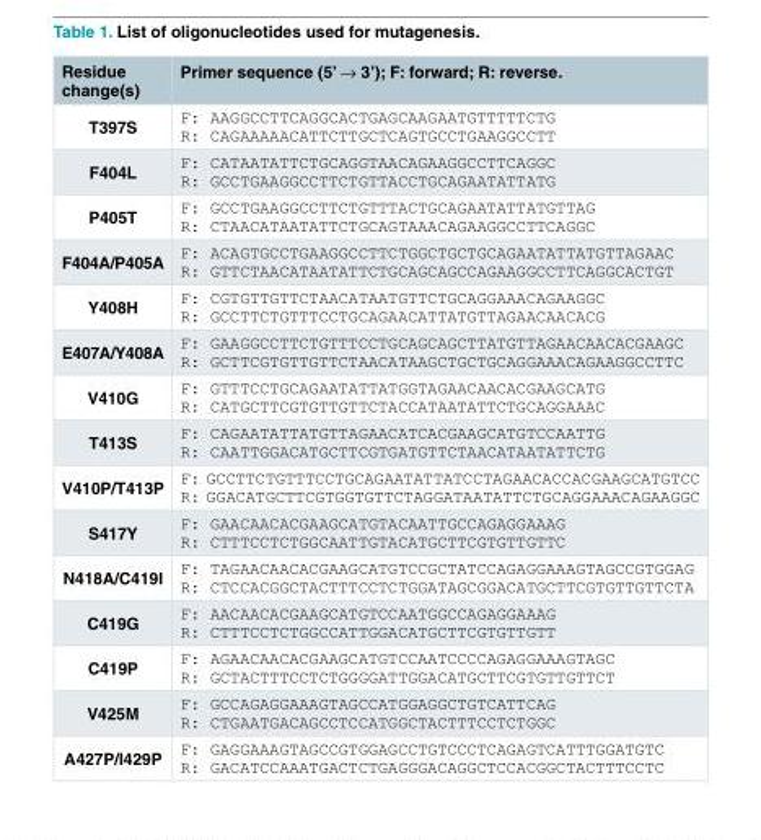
<table><thead><tr><td>Residue change(s)</td><td>Primer sequence (5’ → 3’); F: forward; R: reverse.</td></tr></thead><tbody><tr><td>T397S</td><td>F: AAGGCCTTCAGGCACTGAGCAAGAATGTTTTTCTG R: CAGAAAAACATTCTTGCTCAGTGCCTGAAGGCCTT</td></tr><tr><td>F404L</td><td>F: CATAATATTCTGCAGGTAACAGAAGGCCTTCAGGC R: GCCTGAAGGCCTTCTGTTACCTGCAGAATATTATG</td></tr><tr><td>P405T</td><td>F: GCCTGAAGGCCTTCTGTTTACTGCAGAATATTATGTTAG R: CTAACATAATATTCTGCAGTAAACAGAAGGCCTTCAGGC</td></tr><tr><td>F404A/P405A</td><td>F: ACAGTGCCTGAAGGCCTTCTGGCTGCTGCAGAATATTATGTTAGAAC R: GTTCTAACATAATATTCTGCAGCAGCCAGAAGGCCTTCAGGCACTGT</td></tr><tr><td>Y408H</td><td>F: CGTGTTGTTCTAACATAATGTTCTGCAGGAAACAGAAGGC R: GCCTTCTGTTTCCTGCAGAACATTATGTTAGAACAACACG</td></tr><tr><td>E407A/Y408A</td><td>F: GAAGGCCTTCTGTTTCCTGCAGCAGCTTATGTTAGAACAACACGAAGC R: GCTTCGTGTTGTTCTAACATAAGCTGCTGCAGGAAACAGAAGGCCTTC</td></tr><tr><td>V410G</td><td>F: GTTTCCTGCAGAATATTATGGTAGAACAACACGAAGCATG R: CATGCTTCGTGTTGTTCTACCATAATATTCTGCAGGAAAC</td></tr><tr><td>T413S</td><td>F: CAGAATATTATGTTAGAACATCACGAAGCATGTCCAATTG R: CAATTGGACATGCTTCGTGATGTTCTAACATAATATTCTG</td></tr><tr><td>V410P/T413P</td><td>F: GCCTTCTGTTTCCTGCAGAATATTATCCTAGAACACCACGAAGCATGTCC R: GGACATGCTTCGTGGTGTTCTAGGATAATATTCTGCAGGAAACAGAAGGC</td></tr><tr><td>S417Y</td><td>F: GAACAACACGAAGCATGTACAATTGCCAGAGGAAAG R: CTTTCCTCTGGCAATTGTACATGCTTCGTGTTGTTC</td></tr><tr><td>N418A/C419I</td><td>F: TAGAACAACACGAAGCATGTCCGCTATCCAGAGGAAAGTAGCCGTGGAG R: CTCCACGGCTACTTTCCTCTGGATAGCGGACATGCTTCGTGTTGTTCTA</td></tr><tr><td>C419G</td><td>F: AACAACACGAAGCATGTCCAATGGCCAGAGGAAAG R: CTTTCCTCTGGCCATTGGACATGCTTCGTGTTGTT</td></tr><tr><td>C419P</td><td>F: AGAACAACACGAAGCATGTCCAATCCCCAGAGGAAAGTAGC R: GCTACTTTCCTCTGGGGATTGGACATGCTTCGTGTTGTTCT</td></tr><tr><td>V425M</td><td>F: GCCAGAGGAAAGTAGCCATGGAGGCTGTCATTCAG R: CTGAATGACAGCCTCCATGGCTACTTTCCTCTGGC</td></tr><tr><td>A427P/I429P</td><td>F: GAGGAAAGTAGCCGTGGAGCCTGTCCCTCAGAGTCATTTGGATGTC R: GACATCCAAATGACTCTGAGGGACAGGCTCCACGGCTACTTTCCTC</td></tr></tbody></table>